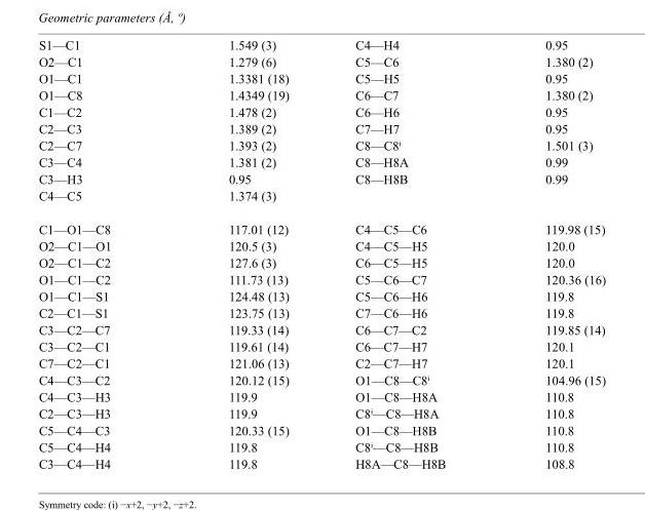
<table><tbody><tr><td>S1—C1</td><td>1.549 (3)</td><td>C4—H4</td><td>0.95</td></tr><tr><td>O2—C1</td><td>1.279 (6)</td><td>C5—C6</td><td>1.380 (2)</td></tr><tr><td>O1—C1</td><td>1.3381 (18)</td><td>C5—H5</td><td>0.95</td></tr><tr><td>O1—C8</td><td>1.4349 (19)</td><td>C6—C7</td><td>1.380 (2)</td></tr><tr><td>C1—C2</td><td>1.478 (2)</td><td>C6—H6</td><td>0.95</td></tr><tr><td>C2—C3</td><td>1.389 (2)</td><td>C7—H7</td><td>0.95</td></tr><tr><td>C2—C7</td><td>1.393 (2)</td><td>C8—C8<sup>i</sup></td><td>1.501 (3)</td></tr><tr><td>C3—C4</td><td>1.381 (2)</td><td>C8—H8A</td><td>0.99</td></tr><tr><td>C3—H3</td><td>0.95</td><td>C8—H8B</td><td>0.99</td></tr><tr><td>C4—C5</td><td>1.374 (3)</td><td></td><td></td></tr><tr><td>C1—O1—C8</td><td>117.01 (12)</td><td>C4—C5—C6</td><td>119.98 (15)</td></tr><tr><td>O2—C1—O1</td><td>120.5 (3)</td><td>C4—C5—H5</td><td>120.0</td></tr><tr><td>O2—C1—C2</td><td>127.6 (3)</td><td>C6—C5—H5</td><td>120.0</td></tr><tr><td>O1—C1—C2</td><td>111.73 (13)</td><td>C5—C6—C7</td><td>120.36 (16)</td></tr><tr><td>O1—C1—S1</td><td>124.48 (13)</td><td>C5—C6—H6</td><td>119.8</td></tr><tr><td>C2—C1—S1</td><td>123.75 (13)</td><td>C7—C6—H6</td><td>119.8</td></tr><tr><td>C3—C2—C7</td><td>119.33 (14)</td><td>C6—C7—C2</td><td>119.85 (14)</td></tr><tr><td>C3—C2—C1</td><td>119.61 (14)</td><td>C6—C7—H7</td><td>120.1</td></tr><tr><td>C7—C2—C1</td><td>121.06 (13)</td><td>C2—C7—H7</td><td>120.1</td></tr><tr><td>C4—C3—C2</td><td>120.12 (15)</td><td>O1—C8—C8<sup>i</sup></td><td>104.96 (15)</td></tr><tr><td>C4—C3—H3</td><td>119.9</td><td>O1—C8—H8A</td><td>110.8</td></tr><tr><td>C2—C3—H3</td><td>119.9</td><td>C8<sup>i</sup>—C8—H8A</td><td>110.8</td></tr><tr><td>C5—C4—C3</td><td>120.33 (15)</td><td>O1—C8—H8B</td><td>110.8</td></tr><tr><td>C5—C4—H4</td><td>119.8</td><td>C8<sup>i</sup>—C8—H8B</td><td>110.8</td></tr><tr><td>C3—C4—H4</td><td>119.8</td><td>H8A—C8—H8B</td><td>108.8</td></tr></tbody></table>